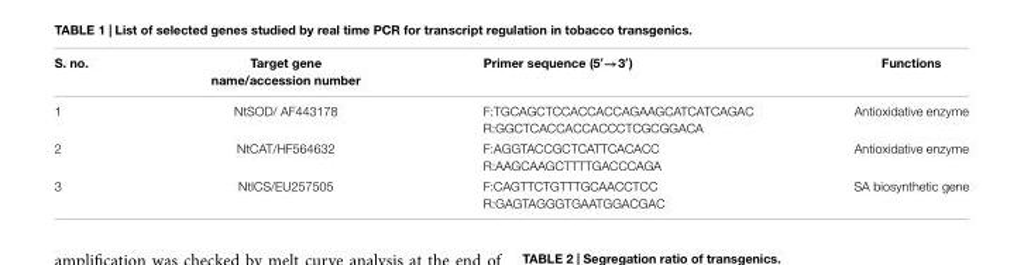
<table><thead><tr><td>S. no.</td><td>Target gene name/accession number</td><td>Primer sequence (5′→3′)</td><td>Functions</td></tr></thead><tbody><tr><td>1</td><td>NtSOD/ AF443178</td><td>F:TGCAGCTCCACCACCAGAAGCATCATCAGAC R:GGCTCACCACCACCCTCGCGGACA</td><td>Antioxidative enzyme</td></tr><tr><td>2</td><td>NtCAT/HF564632</td><td>F:AGGTACCGCTCATTCACACC R:AAGCAAGCTTTTGACCCAGA</td><td>Antioxidative enzyme</td></tr><tr><td>3</td><td>NtICS/EU257505</td><td>F:CAGTTCTGTTTGCAACCTCC R:GAGTAGGGTGAATGGACGAC</td><td>SA biosynthetic gene</td></tr></tbody></table>